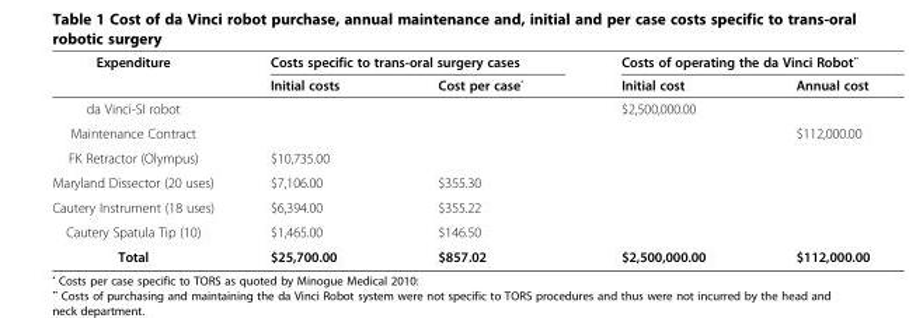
<table><thead><tr><td rowspan="2">Expenditure</td><td colspan="2">Costs specific to trans-oral surgery cases</td><td colspan="2">Costs of operating the da Vinci Robot••</td></tr><tr><td>Initial costs</td><td>Cost per case•</td><td>Initial cost</td><td>Annual cost</td></tr></thead><tbody><tr><td>da Vinci-SI robot</td><td></td><td></td><td>$2,500,000.00</td><td></td></tr><tr><td>Maintenance Contract</td><td></td><td></td><td></td><td>$112,000.00</td></tr><tr><td>FK Retractor (Olympus)</td><td>$10,735.00</td><td></td><td></td><td></td></tr><tr><td>Maryland Dissector (20 uses)</td><td>$7,106.00</td><td>$355.30</td><td></td><td></td></tr><tr><td>Cautery Instrument (18 uses)</td><td>$6,394.00</td><td>$355.22</td><td></td><td></td></tr><tr><td>Cautery Spatula Tip (10)</td><td>$1,465.00</td><td>$146.50</td><td></td><td></td></tr><tr><td>Total</td><td>$25,700.00</td><td>$857.02</td><td>$2,500,000.00</td><td>$112,000.00</td></tr></tbody></table>